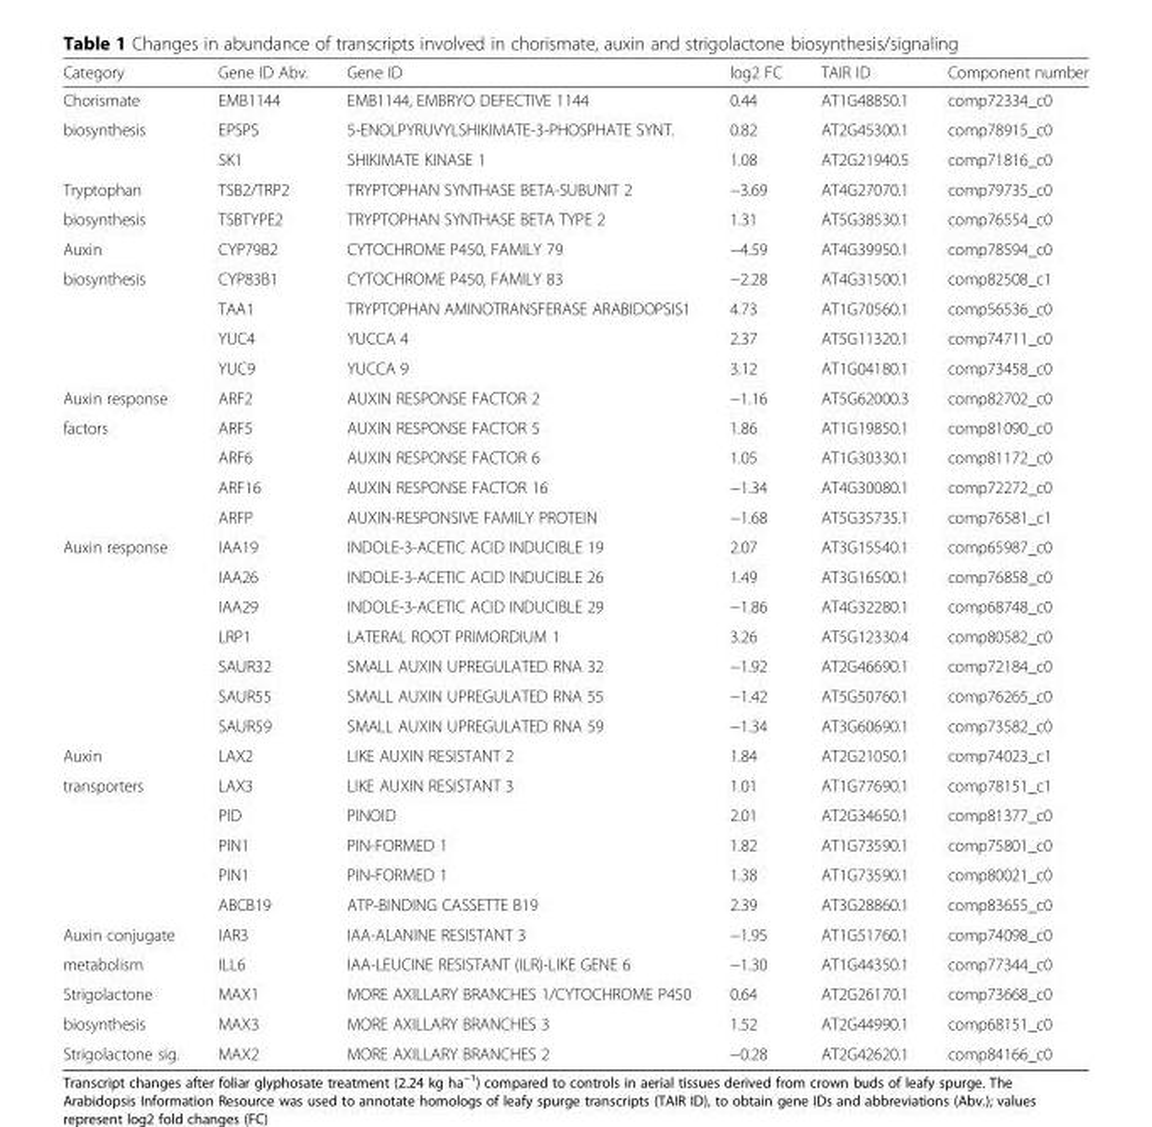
<table><thead><tr><td>Category</td><td>Gene ID Abv.</td><td>Gene ID</td><td>log2 FC</td><td>TAIR ID</td><td>Component number</td></tr></thead><tbody><tr><td>Chorismate</td><td>EMB1144</td><td>EMB1144, EMBRYO DEFECTIVE 1144</td><td>0.44</td><td>AT1G48850.1</td><td>comp72334_c0</td></tr><tr><td rowspan="2">biosynthesis</td><td>EPSPS</td><td>5-ENOLPYRUVYLSHIKIMATE-3-PHOSPHATE SYNT.</td><td>0.82</td><td>AT2G45300.1</td><td>comp78915_c0</td></tr><tr><td>SK1</td><td>SHIKIMATE KINASE 1</td><td>1.08</td><td>AT2G21940.5</td><td>comp71816_c0</td></tr><tr><td>Tryptophan</td><td>TSB2/TRP2</td><td>TRYPTOPHAN SYNTHASE BETA-SUBUNIT 2</td><td>−3.69</td><td>AT4G27070.1</td><td>comp79735_c0</td></tr><tr><td>biosynthesis</td><td>TSBTYPE2</td><td>TRYPTOPHAN SYNTHASE BETA TYPE 2</td><td>1.31</td><td>AT5G38530.1</td><td>comp76554_c0</td></tr><tr><td>Auxin</td><td>CYP79B2</td><td>CYTOCHROME P450, FAMILY 79</td><td>−4.59</td><td>AT4G39950.1</td><td>comp78594_c0</td></tr><tr><td rowspan="4">biosynthesis</td><td>CYP83B1</td><td>CYTOCHROME P450, FAMILY 83</td><td>−2.28</td><td>AT4G31500.1</td><td>comp82508_c1</td></tr><tr><td>TAA1</td><td>TRYPTOPHAN AMINOTRANSFERASE ARABIDOPSIS1</td><td>4.73</td><td>AT1G70560.1</td><td>comp56536_c0</td></tr><tr><td>YUC4</td><td>YUCCA 4</td><td>2.37</td><td>AT5G11320.1</td><td>comp74711_c0</td></tr><tr><td>YUC9</td><td>YUCCA 9</td><td>3.12</td><td>AT1G04180.1</td><td>comp73458_c0</td></tr><tr><td>Auxin response</td><td>ARF2</td><td>AUXIN RESPONSE FACTOR 2</td><td>−1.16</td><td>AT5G62000.3</td><td>comp82702_c0</td></tr><tr><td rowspan="4">factors</td><td>ARF5</td><td>AUXIN RESPONSE FACTOR 5</td><td>1.86</td><td>AT1G19850.1</td><td>comp81090_c0</td></tr><tr><td>ARF6</td><td>AUXIN RESPONSE FACTOR 6</td><td>1.05</td><td>AT1G30330.1</td><td>comp81172_c0</td></tr><tr><td>ARF16</td><td>AUXIN RESPONSE FACTOR 16</td><td>−1.34</td><td>AT4G30080.1</td><td>comp72272_c0</td></tr><tr><td>ARFP</td><td>AUXIN-RESPONSIVE FAMILY PROTEIN</td><td>−1.68</td><td>AT5G35735.1</td><td>comp76581_c1</td></tr><tr><td rowspan="7">Auxin response</td><td>IAA19</td><td>INDOLE-3-ACETIC ACID INDUCIBLE 19</td><td>2.07</td><td>AT3G15540.1</td><td>comp65987_c0</td></tr><tr><td>IAA26</td><td>INDOLE-3-ACETIC ACID INDUCIBLE 26</td><td>1.49</td><td>AT3G16500.1</td><td>comp76858_c0</td></tr><tr><td>IAA29</td><td>INDOLE-3-ACETIC ACID INDUCIBLE 29</td><td>−1.86</td><td>AT4G32280.1</td><td>comp68748_c0</td></tr><tr><td>LRP1</td><td>LATERAL ROOT PRIMORDIUM 1</td><td>3.26</td><td>AT5G12330.4</td><td>comp80582_c0</td></tr><tr><td>SAUR32</td><td>SMALL AUXIN UPREGULATED RNA 32</td><td>−1.92</td><td>AT2G46690.1</td><td>comp72184_c0</td></tr><tr><td>SAUR55</td><td>SMALL AUXIN UPREGULATED RNA 55</td><td>−1.42</td><td>AT5G50760.1</td><td>comp76265_c0</td></tr><tr><td>SAUR59</td><td>SMALL AUXIN UPREGULATED RNA 59</td><td>−1.34</td><td>AT3G60690.1</td><td>comp73582_c0</td></tr><tr><td>Auxin</td><td>LAX2</td><td>LIKE AUXIN RESISTANT 2</td><td>1.84</td><td>AT2G21050.1</td><td>comp74023_c1</td></tr><tr><td rowspan="5">transporters</td><td>LAX3</td><td>LIKE AUXIN RESISTANT 3</td><td>1.01</td><td>AT1G77690.1</td><td>comp78151_c1</td></tr><tr><td>PID</td><td>PINOID</td><td>2.01</td><td>AT2G34650.1</td><td>comp81377_c0</td></tr><tr><td>PIN1</td><td>PIN-FORMED 1</td><td>1.82</td><td>AT1G73590.1</td><td>comp75801_c0</td></tr><tr><td>PIN1</td><td>PIN-FORMED 1</td><td>1.38</td><td>AT1G73590.1</td><td>comp80021_c0</td></tr><tr><td>ABCB19</td><td>ATP-BINDING CASSETTE B19</td><td>2.39</td><td>AT3G28860.1</td><td>comp83655_c0</td></tr><tr><td>Auxin conjugate</td><td>IAR3</td><td>IAA-ALANINE RESISTANT 3</td><td>−1.95</td><td>AT1G51760.1</td><td>comp74098_c0</td></tr><tr><td>metabolism</td><td>ILL6</td><td>IAA-LEUCINE RESISTANT (ILR)-LIKE GENE 6</td><td>−1.30</td><td>AT1G44350.1</td><td>comp77344_c0</td></tr><tr><td>Strigolactone</td><td>MAX1</td><td>MORE AXILLARY BRANCHES 1/CYTOCHROME P450</td><td>0.64</td><td>AT2G26170.1</td><td>comp73668_c0</td></tr><tr><td>biosynthesis</td><td>MAX3</td><td>MORE AXILLARY BRANCHES 3</td><td>1.52</td><td>AT2G44990.1</td><td>comp68151_c0</td></tr><tr><td>Strigolactone sig.</td><td>MAX2</td><td>MORE AXILLARY BRANCHES 2</td><td>−0.28</td><td>AT2G42620.1</td><td>comp84166_c0</td></tr></tbody></table>